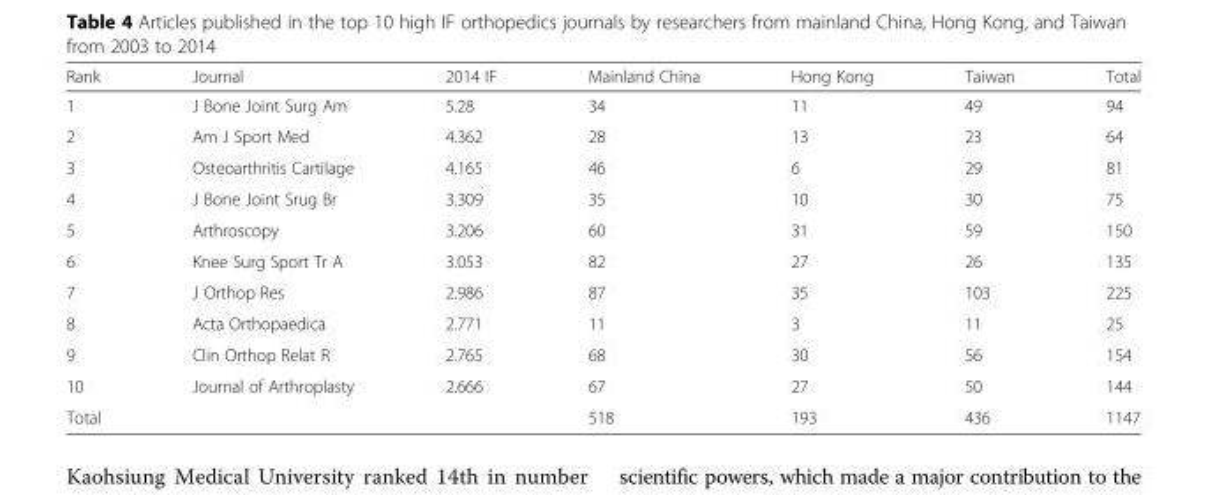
<table><thead><tr><td>Rank</td><td>Journal</td><td>2014 IF</td><td>Mainland China</td><td>Hong Kong</td><td>Taiwan</td><td>Total</td></tr></thead><tbody><tr><td>1</td><td>J Bone Joint Surg Am</td><td>5.28</td><td>34</td><td>11</td><td>49</td><td>94</td></tr><tr><td>2</td><td>Am J Sport Med</td><td>4.362</td><td>28</td><td>13</td><td>23</td><td>64</td></tr><tr><td>3</td><td>Osteoarthritis Cartilage</td><td>4.165</td><td>46</td><td>6</td><td>29</td><td>81</td></tr><tr><td>4</td><td>J Bone Joint Srug Br</td><td>3.309</td><td>35</td><td>10</td><td>30</td><td>75</td></tr><tr><td>5</td><td>Arthroscopy</td><td>3.206</td><td>60</td><td>31</td><td>59</td><td>150</td></tr><tr><td>6</td><td>Knee Surg Sport Tr A</td><td>3.053</td><td>82</td><td>27</td><td>26</td><td>135</td></tr><tr><td>7</td><td>J Orthop Res</td><td>2.986</td><td>87</td><td>35</td><td>103</td><td>225</td></tr><tr><td>8</td><td>Acta Orthopaedica</td><td>2.771</td><td>11</td><td>3</td><td>11</td><td>25</td></tr><tr><td>9</td><td>Clin Orthop Relat R</td><td>2.765</td><td>68</td><td>30</td><td>56</td><td>154</td></tr><tr><td>10</td><td>Journal of Arthroplasty</td><td>2.666</td><td>67</td><td>27</td><td>50</td><td>144</td></tr><tr><td>Total</td><td></td><td></td><td>518</td><td>193</td><td>436</td><td>1147</td></tr></tbody></table>